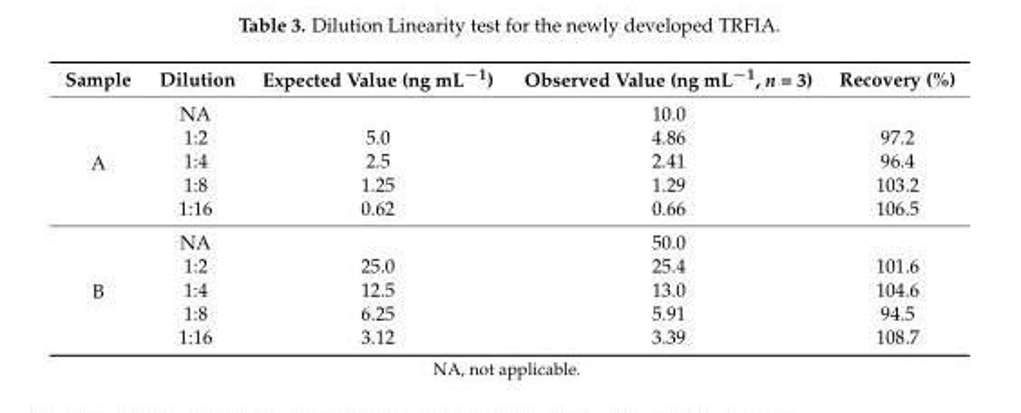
<table><thead><tr><td>Sample</td><td>Dilution</td><td>Expected Value (ng mL<sup>−1</sup>)</td><td>Observed Value (ng mL<sup>−1</sup>, n = 3)</td><td>Recovery (%)</td></tr></thead><tbody><tr><td rowspan="5">A</td><td>NA</td><td></td><td>10.0</td><td></td></tr><tr><td>1:2</td><td>5.0</td><td>4.86</td><td>97.2</td></tr><tr><td>1:4</td><td>2.5</td><td>2.41</td><td>96.4</td></tr><tr><td>1:8</td><td>1.25</td><td>1.29</td><td>103.2</td></tr><tr><td>1:16</td><td>0.62</td><td>0.66</td><td>106.5</td></tr><tr><td rowspan="5">B</td><td>NA</td><td></td><td>50.0</td><td></td></tr><tr><td>1:2</td><td>25.0</td><td>25.4</td><td>101.6</td></tr><tr><td>1:4</td><td>12.5</td><td>13.0</td><td>104.6</td></tr><tr><td>1:8</td><td>6.25</td><td>5.91</td><td>94.5</td></tr><tr><td>1:16</td><td>3.12</td><td>3.39</td><td>108.7</td></tr></tbody></table>